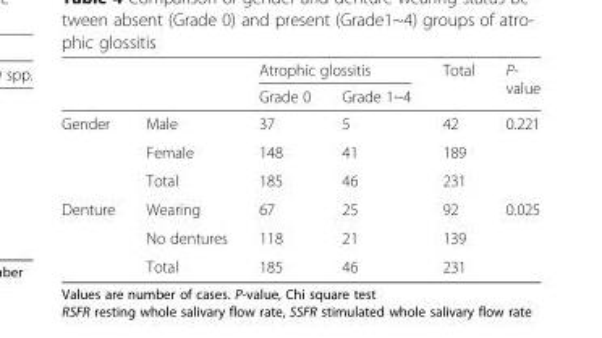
<table><thead><tr><td rowspan="2"></td><td rowspan="2"></td><td colspan="2">Atrophic glossitis</td><td rowspan="2">Total</td><td rowspan="2">P- value</td></tr><tr><td>Grade 0</td><td>Grade 1~4</td></tr></thead><tbody><tr><td rowspan="3">Gender</td><td>Male</td><td>37</td><td>5</td><td>42</td><td rowspan="2">0.221</td></tr><tr><td>Female</td><td>148</td><td>41</td><td>189</td></tr><tr><td>Total</td><td>185</td><td>46</td><td>231</td><td></td></tr><tr><td rowspan="3">Denture</td><td>Wearing</td><td>67</td><td>25</td><td>92</td><td rowspan="2">0.025</td></tr><tr><td>No dentures</td><td>118</td><td>21</td><td>139</td></tr><tr><td>Total</td><td>185</td><td>46</td><td>231</td><td></td></tr></tbody></table>